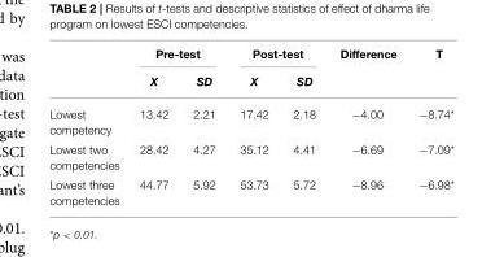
<table><thead><tr><td rowspan="2"></td><td colspan="2">Pre-test</td><td colspan="2">Post-test</td><td rowspan="2">Difference</td><td rowspan="2">T</td></tr><tr><td>X</td><td>SD</td><td>X</td><td>SD</td></tr></thead><tbody><tr><td>Lowest competency</td><td>13.42</td><td>2.21</td><td>17.42</td><td>2.18</td><td>−4.00</td><td>−8.74*</td></tr><tr><td>Lowest two competencies</td><td>28.42</td><td>4.27</td><td>35.12</td><td>4.41</td><td>−6.69</td><td>−7.09*</td></tr><tr><td>Lowest three competencies</td><td>44.77</td><td>5.92</td><td>53.73</td><td>5.72</td><td>−8.96</td><td>−6.98*</td></tr></tbody></table>